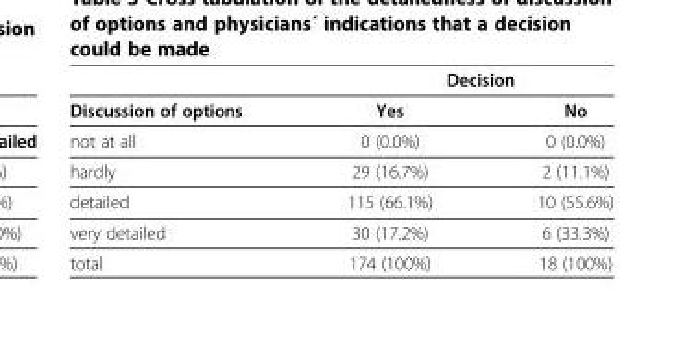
<table><thead><tr><td rowspan="2">Discussion of options</td><td colspan="2">Decision</td></tr><tr><td>Yes</td><td>No</td></tr></thead><tbody><tr><td>not at all</td><td>0 (0.0%)</td><td>0 (0.0%)</td></tr><tr><td>hardly</td><td>29 (16.7%)</td><td>2 (11.1%)</td></tr><tr><td>detailed</td><td>115 (66.1%)</td><td>10 (55.6%)</td></tr><tr><td>very detailed</td><td>30 (17.2%)</td><td>6 (33.3%)</td></tr><tr><td>total</td><td>174 (100%)</td><td>18 (100%)</td></tr></tbody></table>